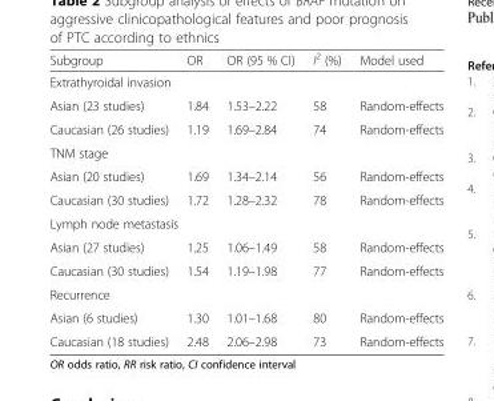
<table><thead><tr><td>Subgroup</td><td>OR</td><td>OR (95 % CI)</td><td>I<sup>2</sup> (%)</td><td>Model used</td></tr></thead><tbody><tr><td colspan="5">Extrathyroidal invasion</td></tr><tr><td>Asian (23 studies)</td><td>1.84</td><td>1.53–2.22</td><td>58</td><td>Random-effects</td></tr><tr><td>Caucasian (26 studies)</td><td>1.19</td><td>1.69–2.84</td><td>74</td><td>Random-effects</td></tr><tr><td colspan="5">TNM stage</td></tr><tr><td>Asian (20 studies)</td><td>1.69</td><td>1.34–2.14</td><td>56</td><td>Random-effects</td></tr><tr><td>Caucasian (30 studies)</td><td>1.72</td><td>1.28–2.32</td><td>78</td><td>Random-effects</td></tr><tr><td colspan="5">Lymph node metastasis</td></tr><tr><td>Asian (27 studies)</td><td>1.25</td><td>1.06–1.49</td><td>58</td><td>Random-effects</td></tr><tr><td>Caucasian (30 studies)</td><td>1.54</td><td>1.19–1.98</td><td>77</td><td>Random-effects</td></tr><tr><td colspan="5">Recurrence</td></tr><tr><td>Asian (6 studies)</td><td>1.30</td><td>1.01–1.68</td><td>80</td><td>Random-effects</td></tr><tr><td>Caucasian (18 studies)</td><td>2.48</td><td>2.06–2.98</td><td>73</td><td>Random-effects</td></tr></tbody></table>